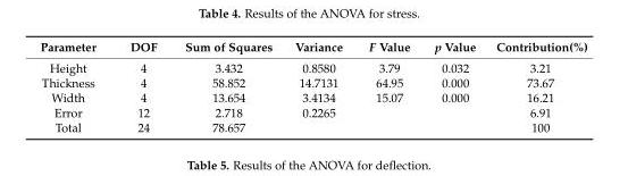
<table><thead><tr><td>Parameter</td><td>DOF</td><td>Sum of Squares</td><td>Variance</td><td>F Value</td><td>p Value</td><td>Contribution(%)</td></tr></thead><tbody><tr><td>Height</td><td>4</td><td>3.432</td><td>0.8580</td><td>3.79</td><td>0.032</td><td>3.21</td></tr><tr><td>Thickness</td><td>4</td><td>58.852</td><td>14.7131</td><td>64.95</td><td>0.000</td><td>73.67</td></tr><tr><td>Width</td><td>4</td><td>13.654</td><td>3.4134</td><td>15.07</td><td>0.000</td><td>16.21</td></tr><tr><td>Error</td><td>12</td><td>2.718</td><td>0.2265</td><td></td><td></td><td>6.91</td></tr><tr><td>Total</td><td>24</td><td>78.657</td><td></td><td></td><td></td><td>100</td></tr></tbody></table>